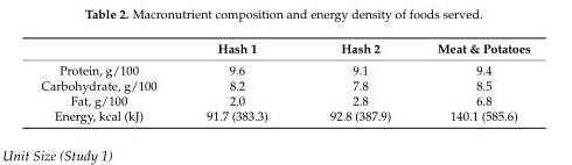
<table><thead><tr><td></td><td>Hash 1</td><td>Hash 2</td><td>Meat &amp; Potatoes</td></tr></thead><tbody><tr><td>Protein, g/100</td><td>9.6</td><td>9.1</td><td>9.4</td></tr><tr><td>Carbohydrate, g/100</td><td>8.2</td><td>7.8</td><td>8.5</td></tr><tr><td>Fat, g/100</td><td>2.0</td><td>2.8</td><td>6.8</td></tr><tr><td>Energy, kcal (kJ)</td><td>91.7 (383.3)</td><td>92.8 (387.9)</td><td>140.1 (585.6)</td></tr></tbody></table>